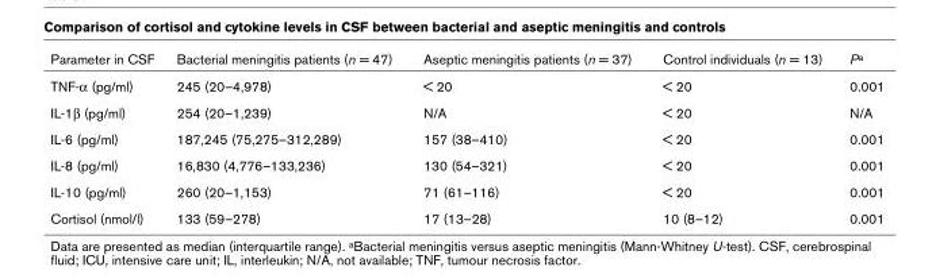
<table><thead><tr><td>Parameter in CSF</td><td>Bacterial meningitis patients (n = 47)</td><td>Aseptic meningitis patients (n = 37)</td><td>Control individuals (n = 13)</td><td>P<sup>a</sup></td></tr></thead><tbody><tr><td>TNF-α (pg/ml)</td><td>245 (20–4,978)</td><td>&lt; 20</td><td>&lt; 20</td><td>0.001</td></tr><tr><td>IL-1β (pg/ml)</td><td>254 (20–1,239)</td><td>N/A</td><td>&lt; 20</td><td>N/A</td></tr><tr><td>IL-6 (pg/ml)</td><td>187,245 (75,275–312,289)</td><td>157 (38–410)</td><td>&lt; 20</td><td>0.001</td></tr><tr><td>IL-8 (pg/ml)</td><td>16,830 (4,776–133,236)</td><td>130 (54–321)</td><td>&lt; 20</td><td>0.001</td></tr><tr><td>IL-10 (pg/ml)</td><td>260 (20–1,153)</td><td>71 (61–116)</td><td>&lt; 20</td><td>0.001</td></tr><tr><td>Cortisol (nmol/l)</td><td>133 (59–278)</td><td>17 (13–28)</td><td>10 (8–12)</td><td>0.001</td></tr></tbody></table>